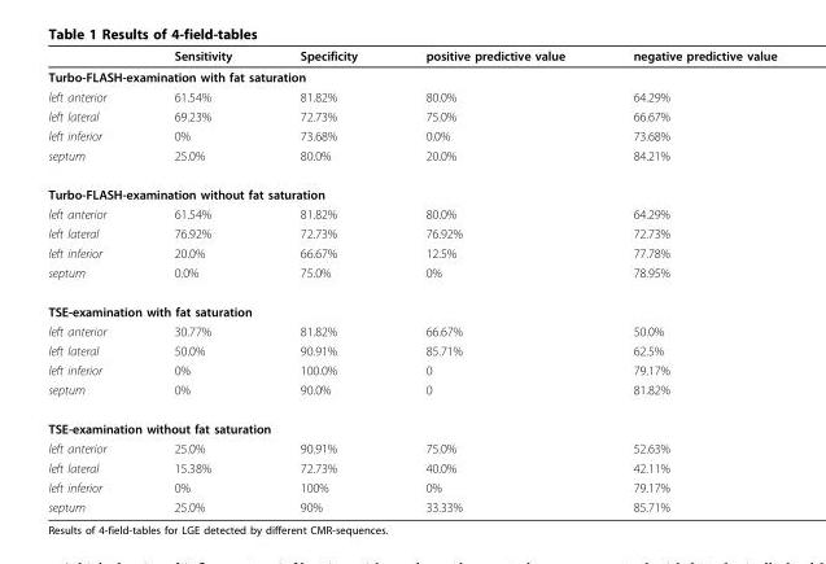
<table><thead><tr><td></td><td>Sensitivity</td><td>Specificity</td><td>positive predictive value</td><td>negative predictive value</td></tr></thead><tbody><tr><td colspan="5">Turbo-FLASH-examination with fat saturation</td></tr><tr><td>left anterior</td><td>61.54%</td><td>81.82%</td><td>80.0%</td><td>64.29%</td></tr><tr><td>left lateral</td><td>69.23%</td><td>72.73%</td><td>75.0%</td><td>66.67%</td></tr><tr><td>left inferior</td><td>0%</td><td>73.68%</td><td>0.0%</td><td>73.68%</td></tr><tr><td>septum</td><td>25.0%</td><td>80.0%</td><td>20.0%</td><td>84.21%</td></tr><tr><td colspan="5">Turbo-FLASH-examination without fat saturation</td></tr><tr><td>left anterior</td><td>61.54%</td><td>81.82%</td><td>80.0%</td><td>64.29%</td></tr><tr><td>left lateral</td><td>76.92%</td><td>72.73%</td><td>76.92%</td><td>72.73%</td></tr><tr><td>left inferior</td><td>20.0%</td><td>66.67%</td><td>12.5%</td><td>77.78%</td></tr><tr><td>septum</td><td>0.0%</td><td>75.0%</td><td>0%</td><td>78.95%</td></tr><tr><td colspan="5">TSE-examination with fat saturation</td></tr><tr><td>left anterior</td><td>30.77%</td><td>81.82%</td><td>66.67%</td><td>50.0%</td></tr><tr><td>left lateral</td><td>50.0%</td><td>90.91%</td><td>85.71%</td><td>62.5%</td></tr><tr><td>left inferior</td><td>0%</td><td>100.0%</td><td>0</td><td>79.17%</td></tr><tr><td>septum</td><td>0%</td><td>90.0%</td><td>0</td><td>81.82%</td></tr><tr><td colspan="5">TSE-examination without fat saturation</td></tr><tr><td>left anterior</td><td>25.0%</td><td>90.91%</td><td>75.0%</td><td>52.63%</td></tr><tr><td>left lateral</td><td>15.38%</td><td>72.73%</td><td>40.0%</td><td>42.11%</td></tr><tr><td>left inferior</td><td>0%</td><td>100%</td><td>0%</td><td>79.17%</td></tr><tr><td>septum</td><td>25.0%</td><td>90%</td><td>33.33%</td><td>85.71%</td></tr></tbody></table>